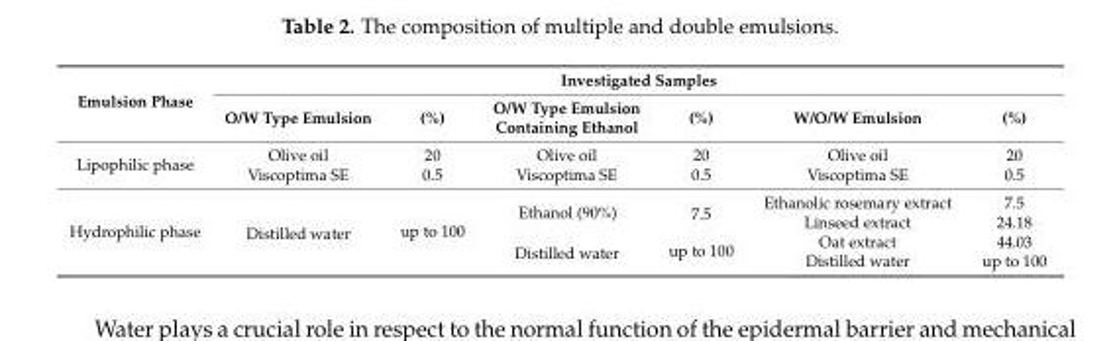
<table><thead><tr><td rowspan="2">Emulsion Phase</td><td colspan="6">Investigated Samples</td></tr><tr><td>O/W Type Emulsion</td><td>(%)</td><td>O/W Type Emulsion Containing Ethanol</td><td>(%)</td><td>W/O/W Emulsion</td><td>(%)</td></tr></thead><tbody><tr><td rowspan="2">Lipophilic phase</td><td>Olive oil</td><td>20</td><td>Olive oil</td><td>20</td><td>Olive oil</td><td>20</td></tr><tr><td>Viscoptima SE</td><td>0.5</td><td>Viscoptima SE</td><td>0.5</td><td>Viscoptima SE</td><td>0.5</td></tr><tr><td rowspan="4">Hydrophilic phase</td><td rowspan="4">Distilled water</td><td rowspan="4">up to 100</td><td rowspan="2">Ethanol (90%)</td><td rowspan="2">7.5</td><td>Ethanolic rosemary extract</td><td>7.5</td></tr><tr><td>Linseed extract</td><td>24.18</td></tr><tr><td rowspan="2">Distilled water</td><td rowspan="2">up to 100</td><td>Oat extract</td><td>44.03</td></tr><tr><td>Distilled water</td><td>up to 100</td></tr></tbody></table>